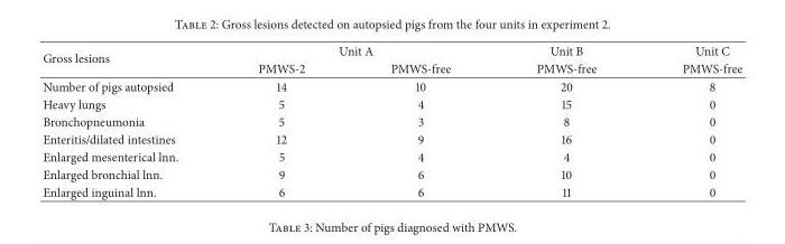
<table><thead><tr><td rowspan="2">Gross lesions</td><td colspan="2">Unit A</td><td rowspan="2">Unit B PMWS-free</td><td rowspan="2">Unit C PMWS-free</td></tr><tr><td>PMWS-2</td><td>PMWS-free</td></tr></thead><tbody><tr><td>Number of pigs autopsied</td><td>14</td><td>10</td><td>20</td><td>8</td></tr><tr><td>Heavy lungs</td><td>5</td><td>4</td><td>15</td><td>0</td></tr><tr><td>Bronchopneumonia</td><td>5</td><td>3</td><td>8</td><td>0</td></tr><tr><td>Enteritis/dilated intestines</td><td>12</td><td>9</td><td>16</td><td>0</td></tr><tr><td>Enlarged mesenterical lnn.</td><td>5</td><td>4</td><td>4</td><td>0</td></tr><tr><td>Enlarged bronchial lnn.</td><td>9</td><td>6</td><td>10</td><td>0</td></tr><tr><td>Enlarged inguinal lnn.</td><td>6</td><td>6</td><td>11</td><td>0</td></tr></tbody></table>